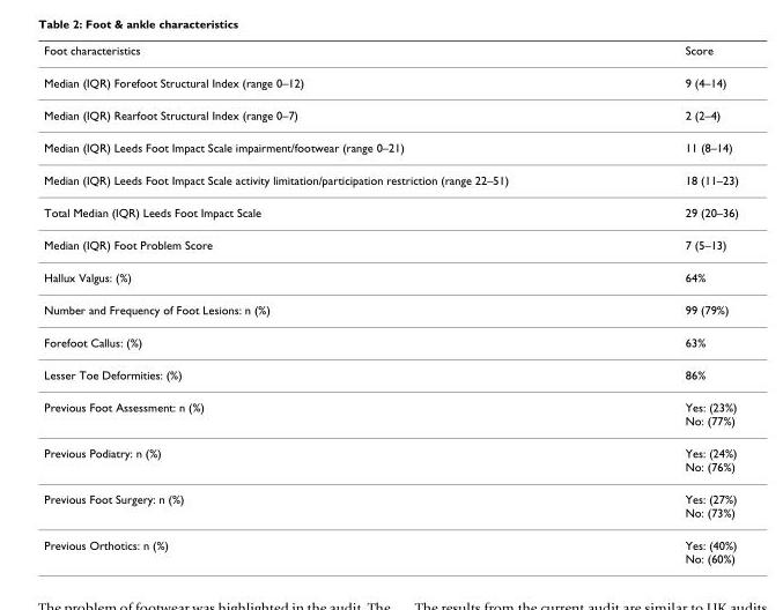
<table><thead><tr><td>Foot characteristics</td><td>Score</td></tr></thead><tbody><tr><td>Median (IQR) Forefoot Structural Index (range 0–12)</td><td>9 (4–14)</td></tr><tr><td>Median (IQR) Rearfoot Structural Index (range 0–7)</td><td>2 (2–4)</td></tr><tr><td>Median (IQR) Leeds Foot Impact Scale impairment/footwear (range 0–21)</td><td>11 (8–14)</td></tr><tr><td>Median (IQR) Leeds Foot Impact Scale activity limitation/participation restriction (range 22–51)</td><td>18 (11–23)</td></tr><tr><td>Total Median (IQR) Leeds Foot Impact Scale</td><td>29 (20–36)</td></tr><tr><td>Median (IQR) Foot Problem Score</td><td>7 (5–13)</td></tr><tr><td>Hallux Valgus: (%)</td><td>64%</td></tr><tr><td>Number and Frequency of Foot Lesions: n (%)</td><td>99 (79%)</td></tr><tr><td>Forefoot Callus: (%)</td><td>63%</td></tr><tr><td>Lesser Toe Deformities: (%)</td><td>86%</td></tr><tr><td>Previous Foot Assessment: n (%)</td><td>Yes: (23%) No: (77%)</td></tr><tr><td>Previous Podiatry: n (%)</td><td>Yes: (24%) No: (76%)</td></tr><tr><td>Previous Foot Surgery: n (%)</td><td>Yes: (27%) No: (73%)</td></tr><tr><td>Previous Orthotics: n (%)</td><td>Yes: (40%) No: (60%)</td></tr></tbody></table>